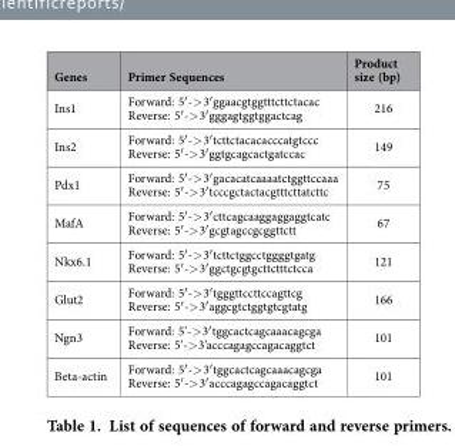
<table><thead><tr><td>Genes</td><td>Primer Sequences</td><td>Product size (bp)</td></tr></thead><tbody><tr><td>Ins1</td><td>Forward: 5′ -&gt; 3′ ggaacgtggtttcttctacac Reverse: 5′ -&gt; 3′ gggagtggtggactcag</td><td>216</td></tr><tr><td>Ins2</td><td>Forward: 5′ -&gt; 3′ tcttctacacacccatgtccc Reverse: 5′ -&gt; 3′ ggtgcagcactgatccac</td><td>149</td></tr><tr><td>Pdx1</td><td>Forward: 5′ -&gt; 3′ gacacatcaaaatctggttccaaa Reverse: 5′ -&gt; 3′ tcccgctactacgtttcttatcttc</td><td>75</td></tr><tr><td>MafA</td><td>Forward: 5′ -&gt; 3′ cttcagcaaggaggaggtcatc Reverse: 5′ -&gt; 3′ gcgtagccgcggttctt</td><td>67</td></tr><tr><td>Nkx6.1</td><td>Forward: 5′ -&gt; 3′ tcttctggcctggggtgatg Reverse: 5′ -&gt; 3′ ggctgcgtgcttctttctcca</td><td>121</td></tr><tr><td>Glut2</td><td>Forward: 5′ -&gt; 3′ tgggttccttccagttcg Reverse: 5′ -&gt; 3′ aggcgtctggtgtcgtatg</td><td>166</td></tr><tr><td>Ngn3</td><td>Forward: 5’-&gt; 3′ tggcactcagcaaacagcga Reverse: 5’-&gt; 3’acccagagccagacaggtct</td><td>101</td></tr><tr><td>Beta-actin</td><td>Forward: 5′ -&gt; 3′ tggcactcagcaaacagcga Reverse: 5′ -&gt; 3′ acccagagccagacaggtct</td><td>101</td></tr></tbody></table>